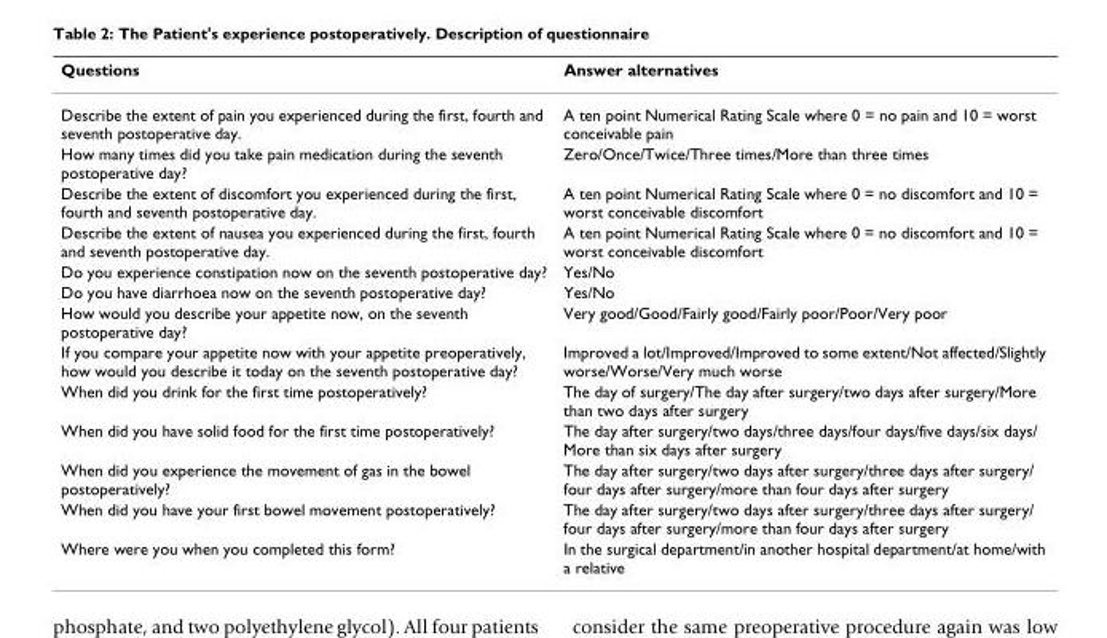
<table><thead><tr><td>Questions</td><td>Answer alternatives</td></tr></thead><tbody><tr><td>Describe the extent of pain you experienced during the first, fourth and seventh postoperative day.</td><td>A ten point Numerical Rating Scale where 0 = no pain and 10 = worst conceivable pain</td></tr><tr><td>How many times did you take pain medication during the seventh postoperative day?</td><td>Zero/Once/Twice/Three times/More than three times</td></tr><tr><td>Describe the extent of discomfort you experienced during the first, fourth and seventh postoperative day.</td><td>A ten point Numerical Rating Scale where 0 = no discomfort and 10 = worst conceivable discomfort</td></tr><tr><td>Describe the extent of nausea you experienced during the first, fourth and seventh postoperative day.</td><td>A ten point Numerical Rating Scale where 0 = no discomfort and 10 = worst conceivable discomfort</td></tr><tr><td>Do you experience constipation now on the seventh postoperative day?</td><td>Yes/No</td></tr><tr><td>Do you have diarrhoea now on the seventh postoperative day?</td><td>Yes/No</td></tr><tr><td>How would you describe your appetite now, on the seventh postoperative day?</td><td>Very good/Good/Fairly good/Fairly poor/Poor/Very poor</td></tr><tr><td>If you compare your appetite now with your appetite preoperatively, how would you describe it today on the seventh postoperative day?</td><td>Improved a lot/Improved/Improved to some extent/Not affected/Slightly worse/Worse/Very much worse</td></tr><tr><td>When did you drink for the first time postoperatively?</td><td>The day of surgery/The day after surgery/two days after surgery/More than two days after surgery</td></tr><tr><td>When did you have solid food for the first time postoperatively?</td><td>The day after surgery/two days/three days/four days/five days/six days/ More than six days after surgery</td></tr><tr><td>When did you experience the movement of gas in the bowel postoperatively?</td><td>The day after surgery/two days after surgery/three days after surgery/ four days after surgery/more than four days after surgery</td></tr><tr><td>When did you have your first bowel movement postoperatively?</td><td>The day after surgery/two days after surgery/three days after surgery/ four days after surgery/more than four days after surgery</td></tr><tr><td>Where were you when you completed this form?</td><td>In the surgical department/in another hospital department/at home/with a relative</td></tr></tbody></table>